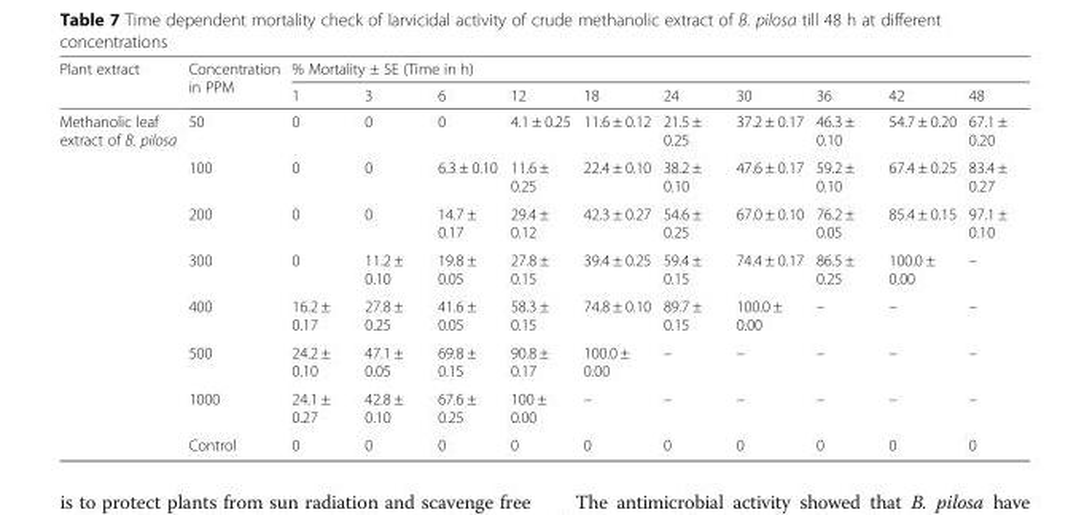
<table><thead><tr><td rowspan="2">Plant extract</td><td rowspan="2">Concentration in PPM</td><td colspan="10">% Mortality ± SE (Time in h)</td></tr><tr><td>1</td><td>3</td><td>6</td><td>12</td><td>18</td><td>24</td><td>30</td><td>36</td><td>42</td><td>48</td></tr></thead><tbody><tr><td rowspan="8">Methanolic leaf extract of B. pilosa</td><td>50</td><td>0</td><td>0</td><td>0</td><td>4.1 ± 0.25</td><td>11.6 ± 0.12</td><td>21.5 ± 0.25</td><td>37.2 ± 0.17</td><td>46.3 ± 0.10</td><td>54.7 ± 0.20</td><td>67.1 ± 0.20</td></tr><tr><td>100</td><td>0</td><td>0</td><td>6.3 ± 0.10</td><td>11.6 ± 0.25</td><td>22.4 ± 0.10</td><td>38.2 ± 0.10</td><td>47.6 ± 0.17</td><td>59.2 ± 0.10</td><td>67.4 ± 0.25</td><td>83.4 ± 0.27</td></tr><tr><td>200</td><td>0</td><td>0</td><td>14.7 ± 0.17</td><td>29.4 ± 0.12</td><td>42.3 ± 0.27</td><td>54.6 ± 0.25</td><td>67.0 ± 0.10</td><td>76.2 ± 0.05</td><td>85.4 ± 0.15</td><td>97.1 ± 0.10</td></tr><tr><td>300</td><td>0</td><td>11.2 ± 0.10</td><td>19.8 ± 0.05</td><td>27.8 ± 0.15</td><td>39.4 ± 0.25</td><td>59.4 ± 0.15</td><td>74.4 ± 0.17</td><td>86.5 ± 0.25</td><td>100.0 ± 0.00</td><td>–</td></tr><tr><td>400</td><td>16.2 ± 0.17</td><td>27.8 ± 0.25</td><td>41.6 ± 0.05</td><td>58.3 ± 0.15</td><td>74.8 ± 0.10</td><td>89.7 ± 0.15</td><td>100.0 ± 0.00</td><td>–</td><td>–</td><td>–</td></tr><tr><td>500</td><td>24.2 ± 0.10</td><td>47.1 ± 0.05</td><td>69.8 ± 0.15</td><td>90.8 ± 0.17</td><td>100.0 ± 0.00</td><td>–</td><td>–</td><td>–</td><td>–</td><td>–</td></tr><tr><td>1000</td><td>24.1 ± 0.27</td><td>42.8 ± 0.10</td><td>67.6 ± 0.25</td><td>100 ± 0.00</td><td>–</td><td>–</td><td>–</td><td>–</td><td>–</td><td>–</td></tr><tr><td>Control</td><td>0</td><td>0</td><td>0</td><td>0</td><td>0</td><td>0</td><td>0</td><td>0</td><td>0</td><td>0</td></tr></tbody></table>